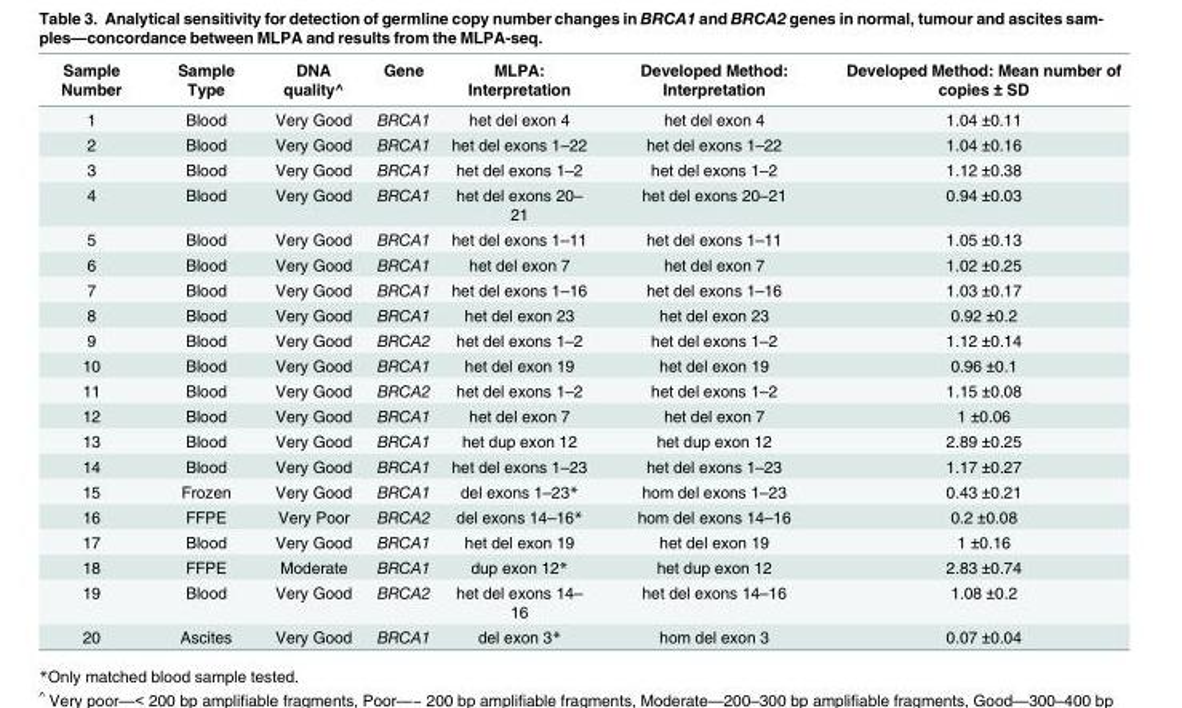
<table><thead><tr><td>Sample Number</td><td>Sample Type</td><td>DNA quality^</td><td>Gene</td><td>MLPA: Interpretation</td><td>Developed Method: Interpretation</td><td>Developed Method: Mean number of copies ± SD</td></tr></thead><tbody><tr><td>1</td><td>Blood</td><td>Very Good</td><td>BRCA1</td><td>het del exon 4</td><td>het del exon 4</td><td>1.04 ±0.11</td></tr><tr><td>2</td><td>Blood</td><td>Very Good</td><td>BRCA1</td><td>het del exons 1–22</td><td>het del exons 1–22</td><td>1.04 ±0.16</td></tr><tr><td>3</td><td>Blood</td><td>Very Good</td><td>BRCA1</td><td>het del exons 1–2</td><td>het del exons 1–2</td><td>1.12 ±0.38</td></tr><tr><td>4</td><td>Blood</td><td>Very Good</td><td>BRCA1</td><td>het del exons 20– 21</td><td>het del exons 20–21</td><td>0.94 ±0.03</td></tr><tr><td>5</td><td>Blood</td><td>Very Good</td><td>BRCA1</td><td>het del exons 1–11</td><td>het del exons 1–11</td><td>1.05 ±0.13</td></tr><tr><td>6</td><td>Blood</td><td>Very Good</td><td>BRCA1</td><td>het del exon 7</td><td>het del exon 7</td><td>1.02 ±0.25</td></tr><tr><td>7</td><td>Blood</td><td>Very Good</td><td>BRCA1</td><td>het del exons 1–16</td><td>het del exons 1–16</td><td>1.03 ±0.17</td></tr><tr><td>8</td><td>Blood</td><td>Very Good</td><td>BRCA1</td><td>het del exon 23</td><td>het del exon 23</td><td>0.92 ±0.2</td></tr><tr><td>9</td><td>Blood</td><td>Very Good</td><td>BRCA2</td><td>het del exons 1–2</td><td>het del exons 1–2</td><td>1.12 ±0.14</td></tr><tr><td>10</td><td>Blood</td><td>Very Good</td><td>BRCA1</td><td>het del exon 19</td><td>het del exon 19</td><td>0.96 ±0.1</td></tr><tr><td>11</td><td>Blood</td><td>Very Good</td><td>BRCA2</td><td>het del exons 1–2</td><td>het del exons 1–2</td><td>1.15 ±0.08</td></tr><tr><td>12</td><td>Blood</td><td>Very Good</td><td>BRCA1</td><td>het del exon 7</td><td>het del exon 7</td><td>1 ±0.06</td></tr><tr><td>13</td><td>Blood</td><td>Very Good</td><td>BRCA1</td><td>het dup exon 12</td><td>het dup exon 12</td><td>2.89 ±0.25</td></tr><tr><td>14</td><td>Blood</td><td>Very Good</td><td>BRCA1</td><td>het del exons 1–23</td><td>het del exons 1–23</td><td>1.17 ±0.27</td></tr><tr><td>15</td><td>Frozen</td><td>Very Good</td><td>BRCA1</td><td>del exons 1–23*</td><td>hom del exons 1–23</td><td>0.43 ±0.21</td></tr><tr><td>16</td><td>FFPE</td><td>Very Poor</td><td>BRCA2</td><td>del exons 14–16*</td><td>hom del exons 14–16</td><td>0.2 ±0.08</td></tr><tr><td>17</td><td>Blood</td><td>Very Good</td><td>BRCA1</td><td>het del exon 19</td><td>het del exon 19</td><td>1 ±0.16</td></tr><tr><td>18</td><td>FFPE</td><td>Moderate</td><td>BRCA1</td><td>dup exon 12*</td><td>het dup exon 12</td><td>2.83 ±0.74</td></tr><tr><td>19</td><td>Blood</td><td>Very Good</td><td>BRCA2</td><td>het del exons 14– 16</td><td>het del exons 14–16</td><td>1.08 ±0.2</td></tr><tr><td>20</td><td>Ascites</td><td>Very Good</td><td>BRCA1</td><td>del exon 3*</td><td>hom del exon 3</td><td>0.07 ±0.04</td></tr></tbody></table>